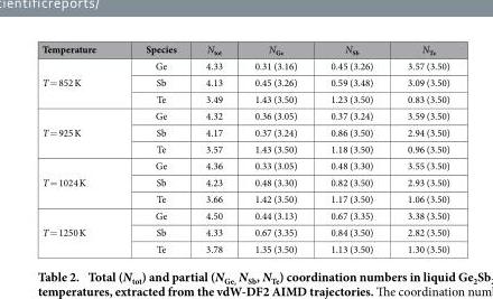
<table><thead><tr><td>Temperature</td><td>Species</td><td>N<sub>tot</sub></td><td>N<sub>Ge</sub></td><td>N<sub>Sb</sub></td><td>N<sub>Te</sub></td></tr></thead><tbody><tr><td rowspan="3">T = 852 K</td><td>Ge</td><td>4.33</td><td>0.31 (3.16)</td><td>0.45 (3.26)</td><td>3.57 (3.50)</td></tr><tr><td>Sb</td><td>4.13</td><td>0.45 (3.26)</td><td>0.59 (3.48)</td><td>3.09 (3.50)</td></tr><tr><td>Te</td><td>3.49</td><td>1.43 (3.50)</td><td>1.23 (3.50)</td><td>0.83 (3.50)</td></tr><tr><td rowspan="3">T = 925 K</td><td>Ge</td><td>4.32</td><td>0.36 (3.05)</td><td>0.37 (3.24)</td><td>3.59 (3.50)</td></tr><tr><td>Sb</td><td>4.17</td><td>0.37 (3.24)</td><td>0.86 (3.50)</td><td>2.94 (3.50)</td></tr><tr><td>Te</td><td>3.57</td><td>1.43 (3.50)</td><td>1.18 (3.50)</td><td>0.96 (3.50)</td></tr><tr><td rowspan="3">T = 1024 K</td><td>Ge</td><td>4.36</td><td>0.33 (3.05)</td><td>0.48 (3.30)</td><td>3.55 (3.50)</td></tr><tr><td>Sb</td><td>4.23</td><td>0.48 (3.30)</td><td>0.82 (3.50)</td><td>2.93 (3.50)</td></tr><tr><td>Te</td><td>3.66</td><td>1.42 (3.50)</td><td>1.17 (3.50)</td><td>1.06 (3.50)</td></tr><tr><td rowspan="3">T = 1250 K</td><td>Ge</td><td>4.50</td><td>0.44 (3.13)</td><td>0.67 (3.35)</td><td>3.38 (3.50)</td></tr><tr><td>Sb</td><td>4.33</td><td>0.67 (3.35)</td><td>0.84 (3.50)</td><td>2.82 (3.50)</td></tr><tr><td>Te</td><td>3.78</td><td>1.35 (3.50)</td><td>1.13 (3.50)</td><td>1.30 (3.50)</td></tr></tbody></table>